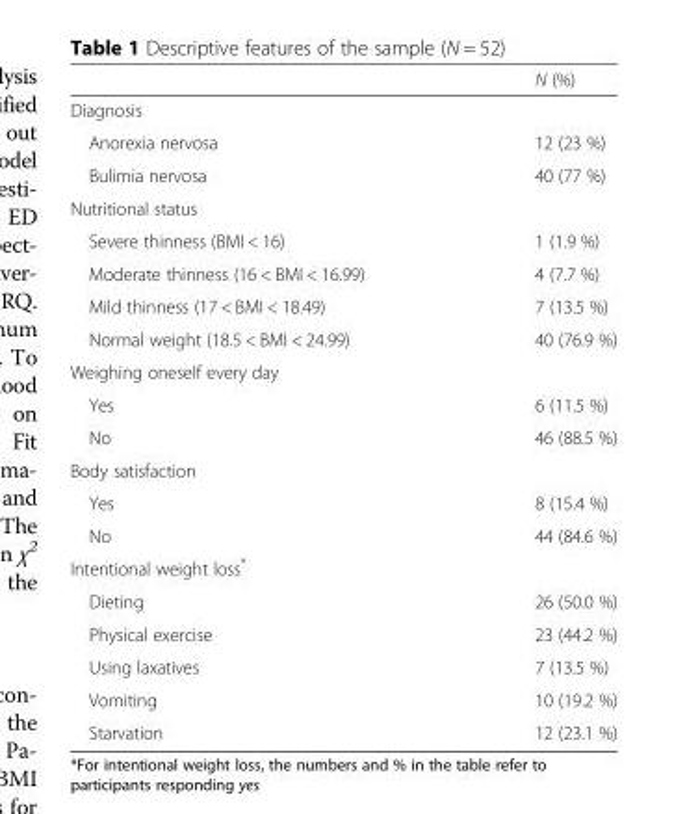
<table><thead><tr><td></td><td>N (%)</td></tr></thead><tbody><tr><td colspan="2">Diagnosis</td></tr><tr><td>Anorexia nervosa</td><td>12 (23 %)</td></tr><tr><td>Bulimia nervosa</td><td>40 (77 %)</td></tr><tr><td colspan="2">Nutritional status</td></tr><tr><td>Severe thinness (BMI &lt; 16)</td><td>1 (1.9 %)</td></tr><tr><td>Moderate thinness (16 &lt; BMI &lt; 16.99)</td><td>4 (7.7 %)</td></tr><tr><td>Mild thinness (17 &lt; BMI &lt; 18.49)</td><td>7 (13.5 %)</td></tr><tr><td>Normal weight (18.5 &lt; BMI &lt; 24.99)</td><td>40 (76.9 %)</td></tr><tr><td colspan="2">Weighing oneself every day</td></tr><tr><td>Yes</td><td>6 (11.5 %)</td></tr><tr><td>No</td><td>46 (88.5 %)</td></tr><tr><td colspan="2">Body satisfaction</td></tr><tr><td>Yes</td><td>8 (15.4 %)</td></tr><tr><td>No</td><td>44 (84.6 %)</td></tr><tr><td colspan="2">Intentional weight loss*</td></tr><tr><td>Dieting</td><td>26 (50.0 %)</td></tr><tr><td>Physical exercise</td><td>23 (44.2 %)</td></tr><tr><td>Using laxatives</td><td>7 (13.5 %)</td></tr><tr><td>Vomiting</td><td>10 (19.2 %)</td></tr><tr><td>Starvation</td><td>12 (23.1 %)</td></tr></tbody></table>